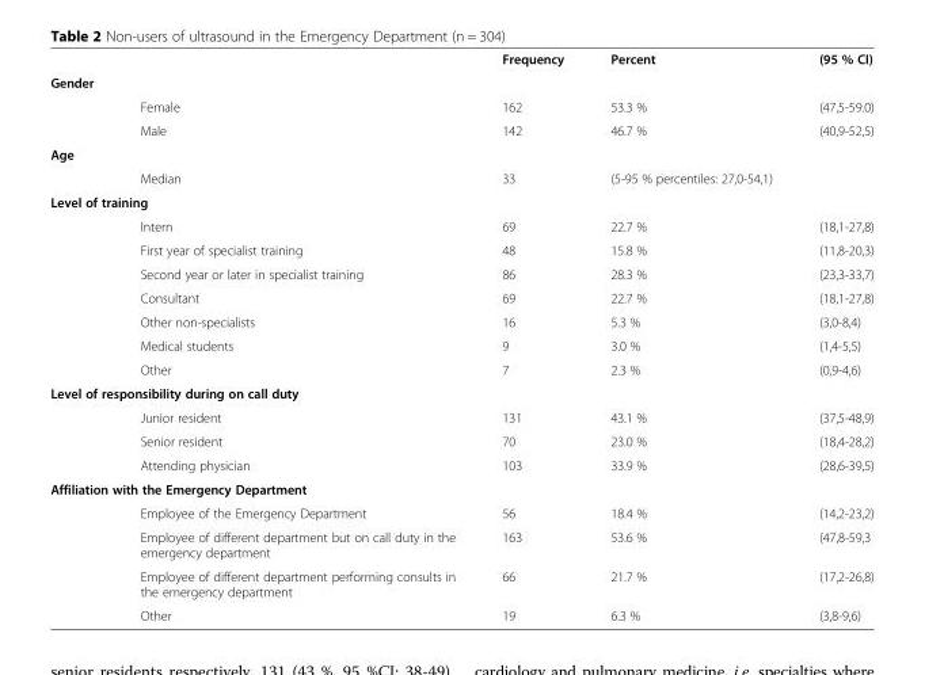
<table><thead><tr><td></td><td></td><td>Frequency</td><td>Percent</td><td>(95 % CI)</td></tr></thead><tbody><tr><td colspan="5">Gender</td></tr><tr><td></td><td>Female</td><td>162</td><td>53.3 %</td><td>(47,5-59.0)</td></tr><tr><td></td><td>Male</td><td>142</td><td>46.7 %</td><td>(40,9-52,5)</td></tr><tr><td colspan="5">Age</td></tr><tr><td></td><td>Median</td><td>33</td><td>(5-95 % percentiles: 27,0-54,1)</td><td></td></tr><tr><td colspan="5">Level of training</td></tr><tr><td></td><td>Intern</td><td>69</td><td>22.7 %</td><td>(18,1-27,8)</td></tr><tr><td></td><td>First year of specialist training</td><td>48</td><td>15.8 %</td><td>(11,8-20,3)</td></tr><tr><td></td><td>Second year or later in specialist training</td><td>86</td><td>28.3 %</td><td>(23,3-33,7)</td></tr><tr><td></td><td>Consultant</td><td>69</td><td>22.7 %</td><td>(18,1-27,8)</td></tr><tr><td></td><td>Other non-specialists</td><td>16</td><td>5.3 %</td><td>(3,0-8,4)</td></tr><tr><td></td><td>Medical students</td><td>9</td><td>3.0 %</td><td>(1,4-5,5)</td></tr><tr><td></td><td>Other</td><td>7</td><td>2.3 %</td><td>(0,9-4,6)</td></tr><tr><td colspan="5">Level of responsibility during on call duty</td></tr><tr><td></td><td>Junior resident</td><td>131</td><td>43.1 %</td><td>(37,5-48,9)</td></tr><tr><td></td><td>Senior resident</td><td>70</td><td>23.0 %</td><td>(18,4-28,2)</td></tr><tr><td></td><td>Attending physician</td><td>103</td><td>33.9 %</td><td>(28,6-39,5)</td></tr><tr><td colspan="5">Affiliation with the Emergency Department</td></tr><tr><td></td><td>Employee of the Emergency Department</td><td>56</td><td>18.4 %</td><td>(14,2-23,2)</td></tr><tr><td></td><td>Employee of different department but on call duty in the emergency department</td><td>163</td><td>53.6 %</td><td>(47,8-59,3</td></tr><tr><td></td><td>Employee of different department performing consults in the emergency department</td><td>66</td><td>21.7 %</td><td>(17,2-26,8)</td></tr><tr><td></td><td>Other</td><td>19</td><td>6.3 %</td><td>(3,8-9,6)</td></tr></tbody></table>